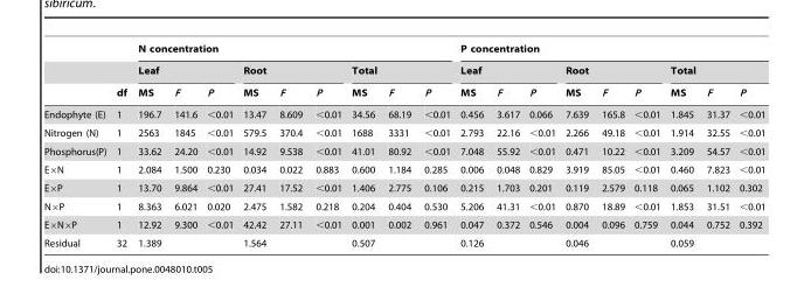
<table><thead><tr><td rowspan="3"></td><td rowspan="3">df</td><td colspan="9">N concentration</td><td colspan="9">P concentration</td></tr><tr><td colspan="3">Leaf</td><td colspan="3">Root</td><td colspan="3">Total</td><td colspan="3">Leaf</td><td colspan="3">Root</td><td colspan="3">Total</td></tr><tr><td>MS</td><td>F</td><td>P</td><td>MS</td><td>F</td><td>P</td><td>MS</td><td>F</td><td>P</td><td>MS</td><td>F</td><td>P</td><td>MS</td><td>F</td><td>P</td><td>MS</td><td>F</td><td>P</td></tr></thead><tbody><tr><td>Endophyte (E)</td><td>1</td><td>196.7</td><td>141.6</td><td>&lt;0.01</td><td>13.47</td><td>8.609</td><td>&lt;0.01</td><td>34.56</td><td>68.19</td><td>&lt;0.01</td><td>0.456</td><td>3.617</td><td>0.066</td><td>7.639</td><td>165.8</td><td>&lt;0.01</td><td>1.845</td><td>31.37</td><td>&lt;0.01</td></tr><tr><td>Nitrogen (N)</td><td>1</td><td>2563</td><td>1845</td><td>&lt;0.01</td><td>579.5</td><td>370.4</td><td>&lt;0.01</td><td>1688</td><td>3331</td><td>&lt;0.01</td><td>2.793</td><td>22.16</td><td>&lt;0.01</td><td>2.266</td><td>49.18</td><td>&lt;0.01</td><td>1.914</td><td>32.55</td><td>&lt;0.01</td></tr><tr><td>Phosphorus(P)</td><td>1</td><td>33.62</td><td>24.20</td><td>&lt;0.01</td><td>14.92</td><td>9.538</td><td>&lt;0.01</td><td>41.01</td><td>80.92</td><td>&lt;0.01</td><td>7.048</td><td>55.92</td><td>&lt;0.01</td><td>0.471</td><td>10.22</td><td>&lt;0.01</td><td>3.209</td><td>54.57</td><td>&lt;0.01</td></tr><tr><td>E×N</td><td>1</td><td>2.084</td><td>1.500</td><td>0.230</td><td>0.034</td><td>0.022</td><td>0.883</td><td>0.600</td><td>1.184</td><td>0.285</td><td>0.006</td><td>0.048</td><td>0.829</td><td>3.919</td><td>85.05</td><td>&lt;0.01</td><td>0.460</td><td>7.823</td><td>&lt;0.01</td></tr><tr><td>E×P</td><td>1</td><td>13.70</td><td>9.864</td><td>&lt;0.01</td><td>27.41</td><td>17.52</td><td>&lt;0.01</td><td>1.406</td><td>2.775</td><td>0.106</td><td>0.215</td><td>1.703</td><td>0.201</td><td>0.119</td><td>2.579</td><td>0.118</td><td>0.065</td><td>1.102</td><td>0.302</td></tr><tr><td>N×P</td><td>1</td><td>8.363</td><td>6.021</td><td>0.020</td><td>2.475</td><td>1.582</td><td>0.218</td><td>0.204</td><td>0.404</td><td>0.530</td><td>5.206</td><td>41.31</td><td>&lt;0.01</td><td>0.870</td><td>18.89</td><td>&lt;0.01</td><td>1.853</td><td>31.51</td><td>&lt;0.01</td></tr><tr><td>E×N×P</td><td>1</td><td>12.92</td><td>9.300</td><td>&lt;0.01</td><td>42.42</td><td>27.11</td><td>&lt;0.01</td><td>0.001</td><td>0.002</td><td>0.961</td><td>0.047</td><td>0.372</td><td>0.546</td><td>0.004</td><td>0.096</td><td>0.759</td><td>0.044</td><td>0.752</td><td>0.392</td></tr><tr><td>Residual</td><td>32</td><td>1.389</td><td></td><td></td><td>1.564</td><td></td><td></td><td>0.507</td><td></td><td></td><td>0.126</td><td></td><td></td><td>0.046</td><td></td><td></td><td>0.059</td><td></td><td></td></tr></tbody></table>